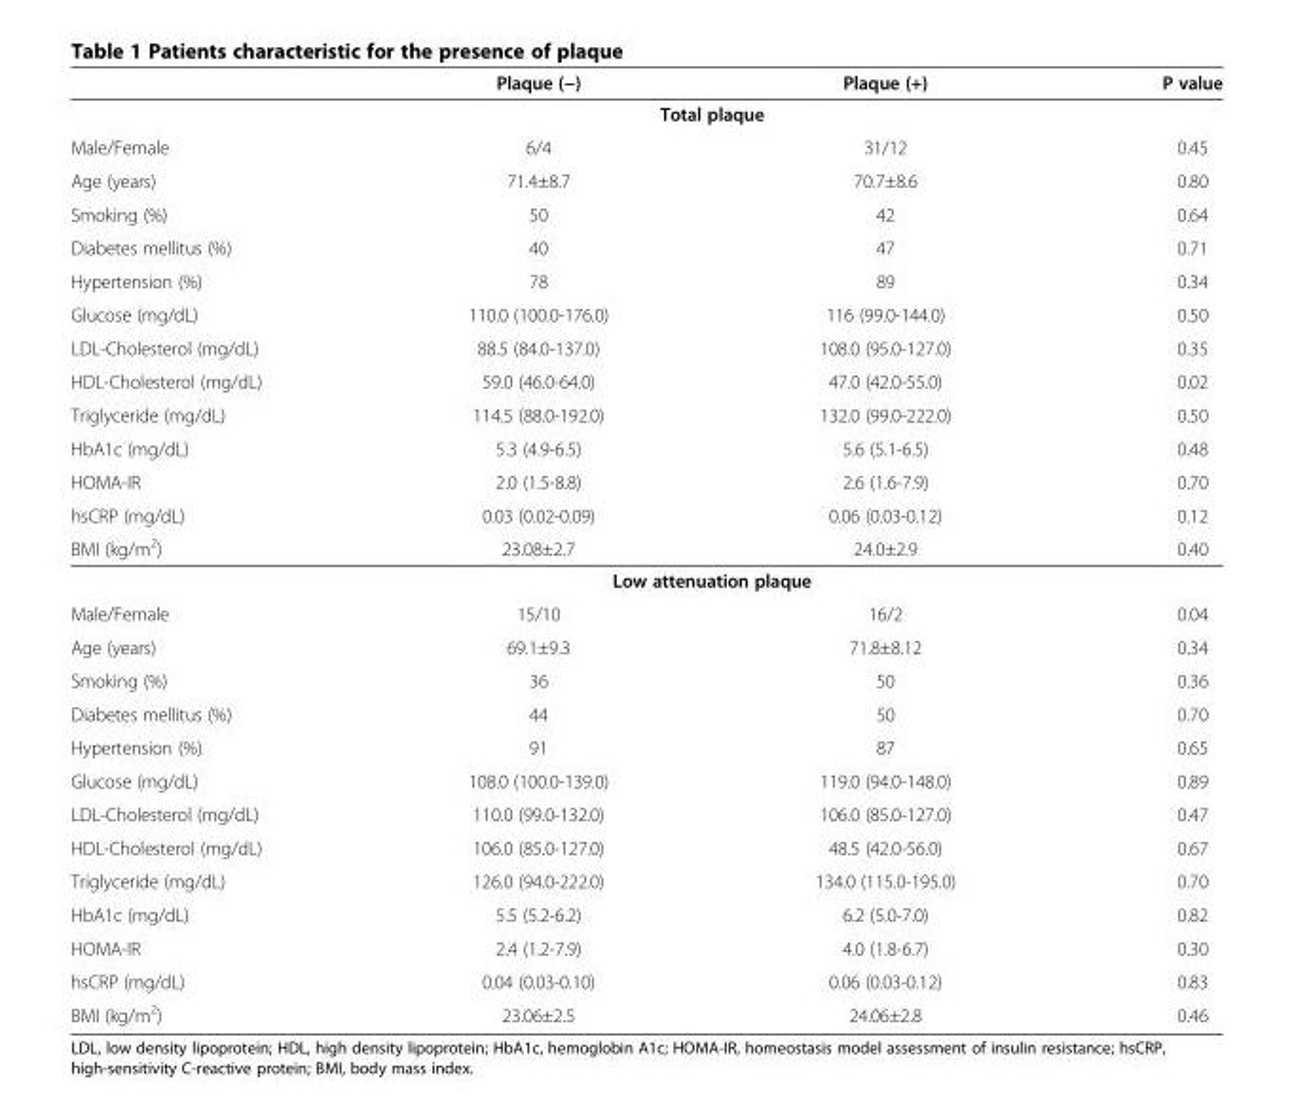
<table><thead><tr><td></td><td>Plaque (−)</td><td>Plaque (+)</td><td>P value</td></tr></thead><tbody><tr><td></td><td colspan="2">Total plaque</td><td></td></tr><tr><td>Male/Female</td><td>6/4</td><td>31/12</td><td>0.45</td></tr><tr><td>Age (years)</td><td>71.4±8.7</td><td>70.7±8.6</td><td>0.80</td></tr><tr><td>Smoking (%)</td><td>50</td><td>42</td><td>0.64</td></tr><tr><td>Diabetes mellitus (%)</td><td>40</td><td>47</td><td>0.71</td></tr><tr><td>Hypertension (%)</td><td>78</td><td>89</td><td>0.34</td></tr><tr><td>Glucose (mg/dL)</td><td>110.0 (100.0-176.0)</td><td>116 (99.0-144.0)</td><td>0.50</td></tr><tr><td>LDL-Cholesterol (mg/dL)</td><td>88.5 (84.0-137.0)</td><td>108.0 (95.0-127.0)</td><td>0.35</td></tr><tr><td>HDL-Cholesterol (mg/dL)</td><td>59.0 (46.0-64.0)</td><td>47.0 (42.0-55.0)</td><td>0.02</td></tr><tr><td>Triglyceride (mg/dL)</td><td>114.5 (88.0-192.0)</td><td>132.0 (99.0-222.0)</td><td>0.50</td></tr><tr><td>HbA1c (mg/dL)</td><td>5.3 (4.9-6.5)</td><td>5.6 (5.1-6.5)</td><td>0.48</td></tr><tr><td>HOMA-IR</td><td>2.0 (1.5-8.8)</td><td>2.6 (1.6-7.9)</td><td>0.70</td></tr><tr><td>hsCRP (mg/dL)</td><td>0.03 (0.02-0.09)</td><td>0.06 (0.03-0.12)</td><td>0.12</td></tr><tr><td rowspan="2">BMI (kg/m<sup>2</sup>)</td><td>23.08±2.7</td><td>24.0±2.9</td><td>0.40</td></tr><tr><td colspan="2">Low attenuation plaque</td><td></td></tr><tr><td>Male/Female</td><td>15/10</td><td>16/2</td><td>0.04</td></tr><tr><td>Age (years)</td><td>69.1±9.3</td><td>71.8±8.12</td><td>0.34</td></tr><tr><td>Smoking (%)</td><td>36</td><td>50</td><td>0.36</td></tr><tr><td>Diabetes mellitus (%)</td><td>44</td><td>50</td><td>0.70</td></tr><tr><td>Hypertension (%)</td><td>91</td><td>87</td><td>0.65</td></tr><tr><td>Glucose (mg/dL)</td><td>108.0 (100.0-139.0)</td><td>119.0 (94.0-148.0)</td><td>0.89</td></tr><tr><td>LDL-Cholesterol (mg/dL)</td><td>110.0 (99.0-132.0)</td><td>106.0 (85.0-127.0)</td><td>0.47</td></tr><tr><td>HDL-Cholesterol (mg/dL)</td><td>106.0 (85.0-127.0)</td><td>48.5 (42.0-56.0)</td><td>0.67</td></tr><tr><td>Triglyceride (mg/dL)</td><td>126.0 (94.0-222.0)</td><td>134.0 (115.0-195.0)</td><td>0.70</td></tr><tr><td>HbA1c (mg/dL)</td><td>5.5 (5.2-6.2)</td><td>6.2 (5.0-7.0)</td><td>0.82</td></tr><tr><td>HOMA-IR</td><td>2.4 (1.2-7.9)</td><td>4.0 (1.8-6.7)</td><td>0.30</td></tr><tr><td>hsCRP (mg/dL)</td><td>0.04 (0.03-0.10)</td><td>0.06 (0.03-0.12)</td><td>0.83</td></tr><tr><td>BMI (kg/m<sup>2</sup>)</td><td>23.06±2.5</td><td>24.06±2.8</td><td>0.46</td></tr></tbody></table>